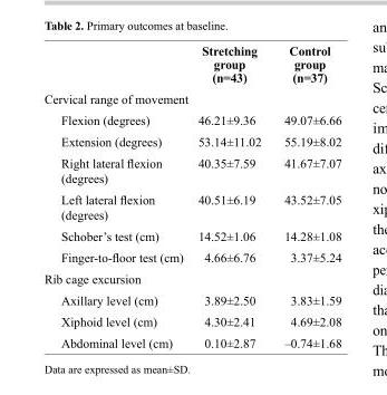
<table><thead><tr><td></td><td>Stretching group (n=43)</td><td>Control group (n=37)</td></tr></thead><tbody><tr><td colspan="3">Cervical range of movement</td></tr><tr><td>Flexion (degrees)</td><td>46.21±9.36</td><td>49.07±6.66</td></tr><tr><td>Extension (degrees)</td><td>53.14±11.02</td><td>55.19±8.02</td></tr><tr><td>Right lateral flexion (degrees)</td><td>40.35±7.59</td><td>41.67±7.07</td></tr><tr><td>Left lateral flexion (degrees)</td><td>40.51±6.19</td><td>43.52±7.05</td></tr><tr><td>Schober’s test (cm)</td><td>14.52±1.06</td><td>14.28±1.08</td></tr><tr><td>Finger-to-floor test (cm)</td><td>4.66±6.76</td><td>3.37±5.24</td></tr><tr><td colspan="3">Rib cage excursion</td></tr><tr><td>Axillary level (cm)</td><td>3.89±2.50</td><td>3.83±1.59</td></tr><tr><td>Xiphoid level (cm)</td><td>4.30±2.41</td><td>4.69±2.08</td></tr><tr><td>Abdominal level (cm)</td><td>0.10±2.87</td><td>–0.74±1.68</td></tr></tbody></table>